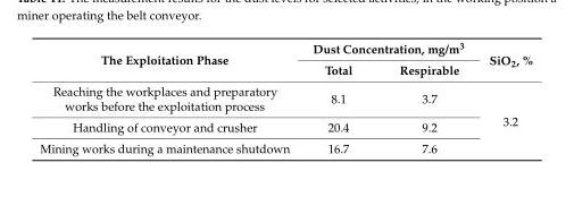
<table><thead><tr><td rowspan="2">The Exploitation Phase</td><td colspan="2">Dust Concentration, mg/m<sup>3</sup></td><td rowspan="2">SiO<sub>2</sub>, %</td></tr><tr><td>Total</td><td>Respirable</td></tr></thead><tbody><tr><td>Reaching the workplaces and preparatory works before the exploitation process</td><td>8.1</td><td>3.7</td><td rowspan="3">3.2</td></tr><tr><td>Handling of conveyor and crusher</td><td>20.4</td><td>9.2</td></tr><tr><td>Mining works during a maintenance shutdown</td><td>16.7</td><td>7.6</td></tr></tbody></table>